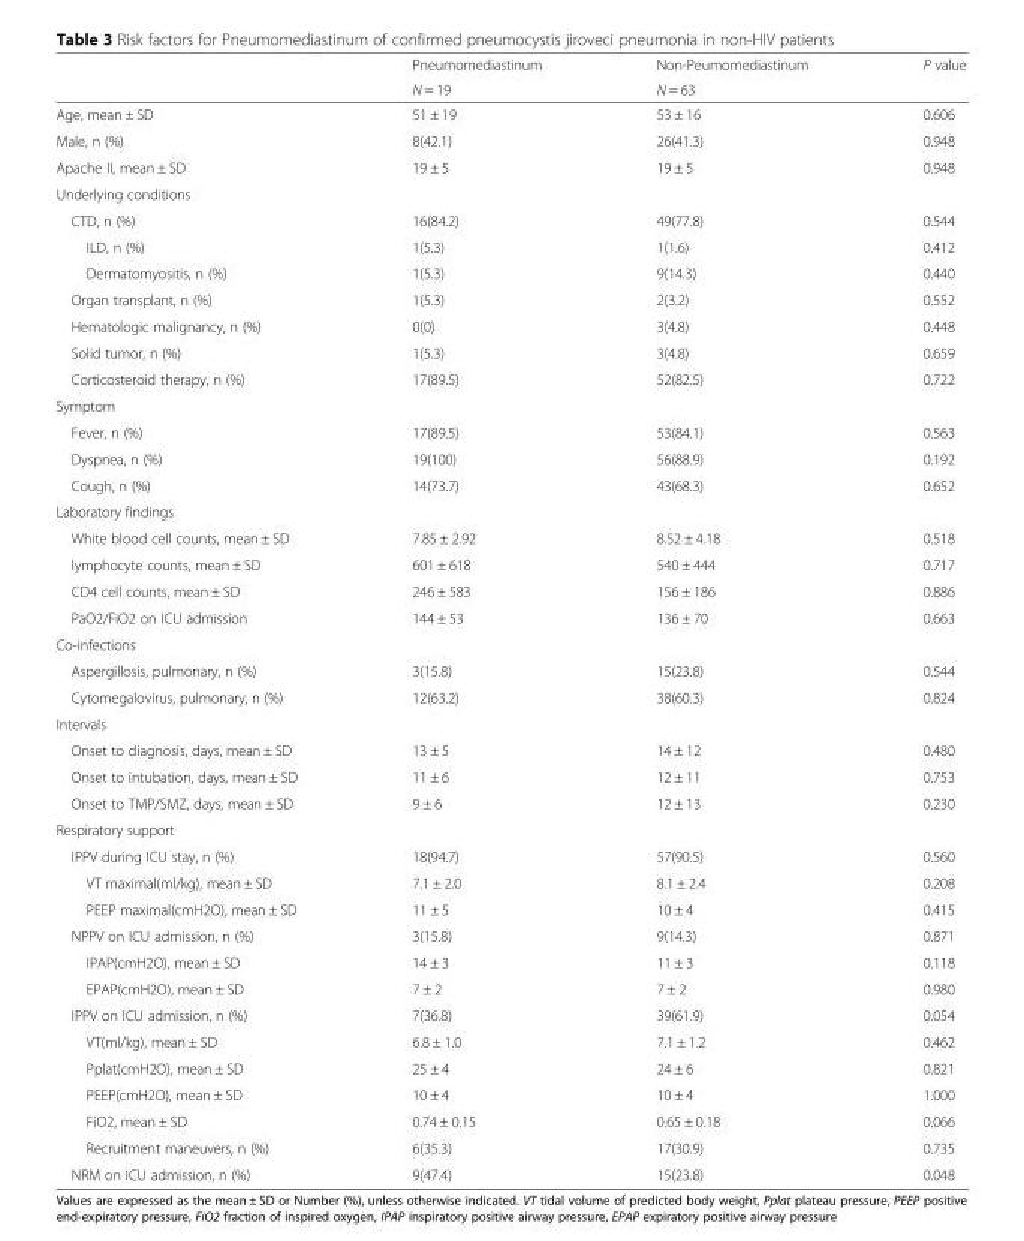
<table><thead><tr><td rowspan="2"></td><td rowspan="2">Pneumomediastinum N = 19</td><td rowspan="2">Non-Peumomediastinum N = 63</td><td rowspan="2">P value</td></tr><tr></tr></thead><tbody><tr><td>Age, mean ± SD</td><td>51 ± 19</td><td>53 ± 16</td><td>0.606</td></tr><tr><td>Male, n (%)</td><td>8(42.1)</td><td>26(41.3)</td><td>0.948</td></tr><tr><td>Apache II, mean ± SD</td><td>19 ± 5</td><td>19 ± 5</td><td>0.948</td></tr><tr><td colspan="4">Underlying conditions</td></tr><tr><td>CTD, n (%)</td><td>16(84.2)</td><td>49(77.8)</td><td>0.544</td></tr><tr><td>ILD, n (%)</td><td>1(5.3)</td><td>1(1.6)</td><td>0.412</td></tr><tr><td>Dermatomyositis, n (%)</td><td>1(5.3)</td><td>9(14.3)</td><td>0.440</td></tr><tr><td>Organ transplant, n (%)</td><td>1(5.3)</td><td>2(3.2)</td><td>0.552</td></tr><tr><td>Hematologic malignancy, n (%)</td><td>0(0)</td><td>3(4.8)</td><td>0.448</td></tr><tr><td>Solid tumor, n (%)</td><td>1(5.3)</td><td>3(4.8)</td><td>0.659</td></tr><tr><td>Corticosteroid therapy, n (%)</td><td>17(89.5)</td><td>52(82.5)</td><td>0.722</td></tr><tr><td colspan="4">Symptom</td></tr><tr><td>Fever, n (%)</td><td>17(89.5)</td><td>53(84.1)</td><td>0.563</td></tr><tr><td>Dyspnea, n (%)</td><td>19(100)</td><td>56(88.9)</td><td>0.192</td></tr><tr><td>Cough, n (%)</td><td>14(73.7)</td><td>43(68.3)</td><td>0.652</td></tr><tr><td colspan="4">Laboratory findings</td></tr><tr><td>White blood cell counts, mean ± SD</td><td>7.85 ± 2.92</td><td>8.52 ± 4.18</td><td>0.518</td></tr><tr><td>lymphocyte counts, mean ± SD</td><td>601 ± 618</td><td>540 ± 444</td><td>0.717</td></tr><tr><td>CD4 cell counts, mean ± SD</td><td>246 ± 583</td><td>156 ± 186</td><td>0.886</td></tr><tr><td>PaO2/FiO2 on ICU admission</td><td>144 ± 53</td><td>136 ± 70</td><td>0.663</td></tr><tr><td colspan="4">Co-infections</td></tr><tr><td>Aspergillosis, pulmonary, n (%)</td><td>3(15.8)</td><td>15(23.8)</td><td>0.544</td></tr><tr><td>Cytomegalovirus, pulmonary, n (%)</td><td>12(63.2)</td><td>38(60.3)</td><td>0.824</td></tr><tr><td colspan="4">Intervals</td></tr><tr><td>Onset to diagnosis, days, mean ± SD</td><td>13 ± 5</td><td>14 ± 12</td><td>0.480</td></tr><tr><td>Onset to intubation, days, mean ± SD</td><td>11 ± 6</td><td>12 ± 11</td><td>0.753</td></tr><tr><td>Onset to TMP/SMZ, days, mean ± SD</td><td>9 ± 6</td><td>12 ± 13</td><td>0.230</td></tr><tr><td colspan="4">Respiratory support</td></tr><tr><td>IPPV during ICU stay, n (%)</td><td>18(94.7)</td><td>57(90.5)</td><td>0.560</td></tr><tr><td>VT maximal(ml/kg), mean ± SD</td><td>7.1 ± 2.0</td><td>8.1 ± 2.4</td><td>0.208</td></tr><tr><td>PEEP maximal(cmH2O), mean ± SD</td><td>11 ± 5</td><td>10 ± 4</td><td>0.415</td></tr><tr><td>NPPV on ICU admission, n (%)</td><td>3(15.8)</td><td>9(14.3)</td><td>0.871</td></tr><tr><td>IPAP(cmH2O), mean ± SD</td><td>14 ± 3</td><td>11 ± 3</td><td>0.118</td></tr><tr><td>EPAP(cmH2O), mean ± SD</td><td>7 ± 2</td><td>7 ± 2</td><td>0.980</td></tr><tr><td>IPPV on ICU admission, n (%)</td><td>7(36.8)</td><td>39(61.9)</td><td>0.054</td></tr><tr><td>VT(ml/kg), mean ± SD</td><td>6.8 ± 1.0</td><td>7.1 ± 1.2</td><td>0.462</td></tr><tr><td>Pplat(cmH2O), mean ± SD</td><td>25 ± 4</td><td>24 ± 6</td><td>0.821</td></tr><tr><td>PEEP(cmH2O), mean ± SD</td><td>10 ± 4</td><td>10 ± 4</td><td>1.000</td></tr><tr><td>FiO2, mean ± SD</td><td>0.74 ± 0.15</td><td>0.65 ± 0.18</td><td>0.066</td></tr><tr><td>Recruitment maneuvers, n (%)</td><td>6(35.3)</td><td>17(30.9)</td><td>0.735</td></tr><tr><td>NRM on ICU admission, n (%)</td><td>9(47.4)</td><td>15(23.8)</td><td>0.048</td></tr></tbody></table>